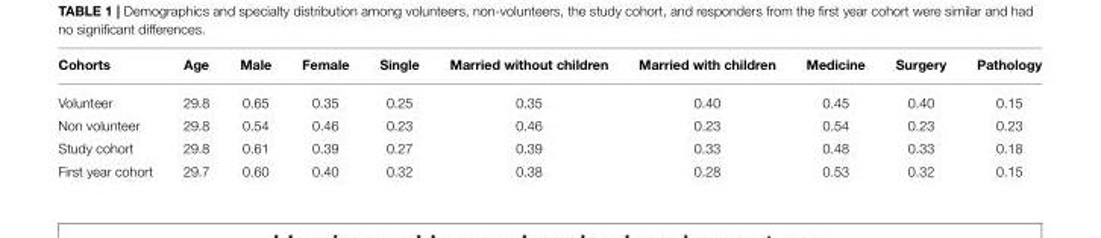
<table><thead><tr><td>Cohorts</td><td>Age</td><td>Male</td><td>Female</td><td>Single</td><td>Married without children</td><td>Married with children</td><td>Medicine</td><td>Surgery</td><td>Pathology</td></tr></thead><tbody><tr><td>Volunteer</td><td>29.8</td><td>0.65</td><td>0.35</td><td>0.25</td><td>0.35</td><td>0.40</td><td>0.45</td><td>0.40</td><td>0.15</td></tr><tr><td>Non volunteer</td><td>29.8</td><td>0.54</td><td>0.46</td><td>0.23</td><td>0.46</td><td>0.23</td><td>0.54</td><td>0.23</td><td>0.23</td></tr><tr><td>Study cohort</td><td>29.8</td><td>0.61</td><td>0.39</td><td>0.27</td><td>0.39</td><td>0.33</td><td>0.48</td><td>0.33</td><td>0.18</td></tr><tr><td>First year cohort</td><td>29.7</td><td>0.60</td><td>0.40</td><td>0.32</td><td>0.38</td><td>0.28</td><td>0.53</td><td>0.32</td><td>0.15</td></tr></tbody></table>